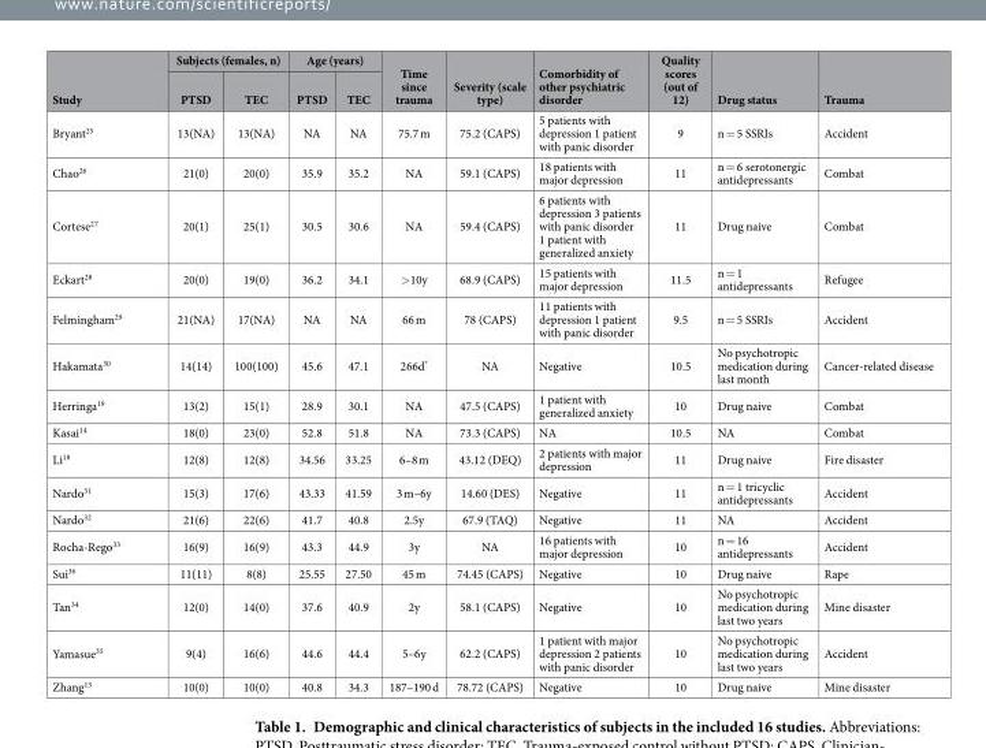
<table><thead><tr><td rowspan="2">Study</td><td colspan="2">Subjects (females, n)</td><td colspan="2">Age (years)</td><td rowspan="2">Time since trauma</td><td rowspan="2">Severity (scale type)</td><td rowspan="2">Comorbidity of other psychiatric disorder</td><td rowspan="2">Quality scores (out of 12)</td><td rowspan="2">Drug status</td><td rowspan="2">Trauma</td></tr><tr><td>PTSD</td><td>TEC</td><td>PTSD</td><td>TEC</td></tr></thead><tbody><tr><td>Bryant<sup>25</sup></td><td>13(NA)</td><td>13(NA)</td><td>NA</td><td>NA</td><td>75.7 m</td><td>75.2 (CAPS)</td><td>5 patients with depression 1 patient with panic disorder</td><td>9</td><td>n = 5 SSRIs</td><td>Accident</td></tr><tr><td>Chao<sup>26</sup></td><td>21(0)</td><td>20(0)</td><td>35.9</td><td>35.2</td><td>NA</td><td>59.1 (CAPS)</td><td>18 patients with major depression</td><td>11</td><td>n = 6 serotonergic antidepressants</td><td>Combat</td></tr><tr><td>Cortese<sup>27</sup></td><td>20(1)</td><td>25(1)</td><td>30.5</td><td>30.6</td><td>NA</td><td>59.4 (CAPS)</td><td>6 patients with depression 3 patients with panic disorder 1 patient with generalized anxiety</td><td>11</td><td>Drug naive</td><td>Combat</td></tr><tr><td>Eckart<sup>28</sup></td><td>20(0)</td><td>19(0)</td><td>36.2</td><td>34.1</td><td>&gt; 10y</td><td>68.9 (CAPS)</td><td>15 patients with major depression</td><td>11.5</td><td>n = 1 antidepressants</td><td>Refugee</td></tr><tr><td>Felmingham<sup>29</sup></td><td>21(NA)</td><td>17(NA)</td><td>NA</td><td>NA</td><td>66 m</td><td>78 (CAPS)</td><td>11 patients with depression 1 patient with panic disorder</td><td>9.5</td><td>n = 5 SSRIs</td><td>Accident</td></tr><tr><td>Hakamata<sup>30</sup></td><td>14(14)</td><td>100(100)</td><td>45.6</td><td>47.1</td><td>266d*</td><td>NA</td><td>Negative</td><td>10.5</td><td>No psychotropic medication during last month</td><td>Cancer-related disease</td></tr><tr><td>Herringa<sup>19</sup></td><td>13(2)</td><td>15(1)</td><td>28.9</td><td>30.1</td><td>NA</td><td>47.5 (CAPS)</td><td>1 patient with generalized anxiety</td><td>10</td><td>Drug naive</td><td>Combat</td></tr><tr><td>Kasai<sup>14</sup></td><td>18(0)</td><td>23(0)</td><td>52.8</td><td>51.8</td><td>NA</td><td>73.3 (CAPS)</td><td>NA</td><td>10.5</td><td>NA</td><td>Combat</td></tr><tr><td>Li<sup>18</sup></td><td>12(8)</td><td>12(8)</td><td>34.56</td><td>33.25</td><td>6–8 m</td><td>43.12 (DEQ)</td><td>2 patients with major depression</td><td>11</td><td>Drug naive</td><td>Fire disaster</td></tr><tr><td>Nardo<sup>31</sup></td><td>15(3)</td><td>17(6)</td><td>43.33</td><td>41.59</td><td>3 m–6y</td><td>14.60 (DES)</td><td>Negative</td><td>11</td><td>n = 1 tricyclic antidepressants</td><td>Accident</td></tr><tr><td>Nardo<sup>32</sup></td><td>21(6)</td><td>22(6)</td><td>41.7</td><td>40.8</td><td>2.5y</td><td>67.9 (TAQ)</td><td>Negative</td><td>11</td><td>NA</td><td>Accident</td></tr><tr><td>Rocha-Rego<sup>33</sup></td><td>16(9)</td><td>16(9)</td><td>43.3</td><td>44.9</td><td>3y</td><td>NA</td><td>16 patients with major depression</td><td>10</td><td>n = 16 antidepressants</td><td>Accident</td></tr><tr><td>Sui<sup>36</sup></td><td>11(11)</td><td>8(8)</td><td>25.55</td><td>27.50</td><td>45 m</td><td>74.45 (CAPS)</td><td>Negative</td><td>10</td><td>Drug naive</td><td>Rape</td></tr><tr><td>Tan<sup>34</sup></td><td>12(0)</td><td>14(0)</td><td>37.6</td><td>40.9</td><td>2y</td><td>58.1 (CAPS)</td><td>Negative</td><td>10</td><td>No psychotropic medication during last two years</td><td>Mine disaster</td></tr><tr><td>Yamasue<sup>35</sup></td><td>9(4)</td><td>16(6)</td><td>44.6</td><td>44.4</td><td>5–6y</td><td>62.2 (CAPS)</td><td>1 patient with major depression 2 patients with panic disorder</td><td>10</td><td>No psychotropic medication during last two years</td><td>Accident</td></tr><tr><td>Zhang<sup>13</sup></td><td>10(0)</td><td>10(0)</td><td>40.8</td><td>34.3</td><td>187–190 d</td><td>78.72 (CAPS)</td><td>Negative</td><td>10</td><td>Drug naive</td><td>Mine disaster</td></tr></tbody></table>